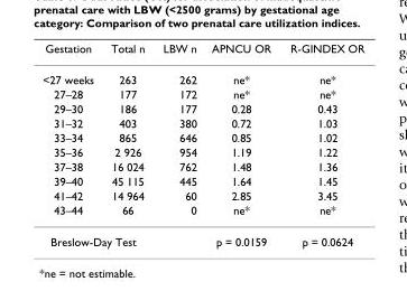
<table><thead><tr><td>Gestation</td><td>Total n</td><td>LBW n</td><td>APNCU OR</td><td>R-GINDEX OR</td></tr></thead><tbody><tr><td>&lt;27 weeks</td><td>263</td><td>262</td><td>ne*</td><td>ne*</td></tr><tr><td>27–28</td><td>177</td><td>172</td><td>ne*</td><td>ne*</td></tr><tr><td>29–30</td><td>186</td><td>177</td><td>0.28</td><td>0.43</td></tr><tr><td>31–32</td><td>403</td><td>380</td><td>0.72</td><td>1.03</td></tr><tr><td>33–34</td><td>865</td><td>646</td><td>0.85</td><td>1.02</td></tr><tr><td>35–36</td><td>2 926</td><td>954</td><td>1.19</td><td>1.22</td></tr><tr><td>37–38</td><td>16 024</td><td>762</td><td>1.48</td><td>1.36</td></tr><tr><td>39–40</td><td>45 115</td><td>445</td><td>1.64</td><td>1.45</td></tr><tr><td>41–42</td><td>14 964</td><td>60</td><td>2.85</td><td>3.45</td></tr><tr><td>43–44</td><td>66</td><td>0</td><td>ne*</td><td>ne*</td></tr><tr><td colspan="2">Breslow-Day Test</td><td></td><td>p = 0.0159</td><td>p = 0.0624</td></tr></tbody></table>